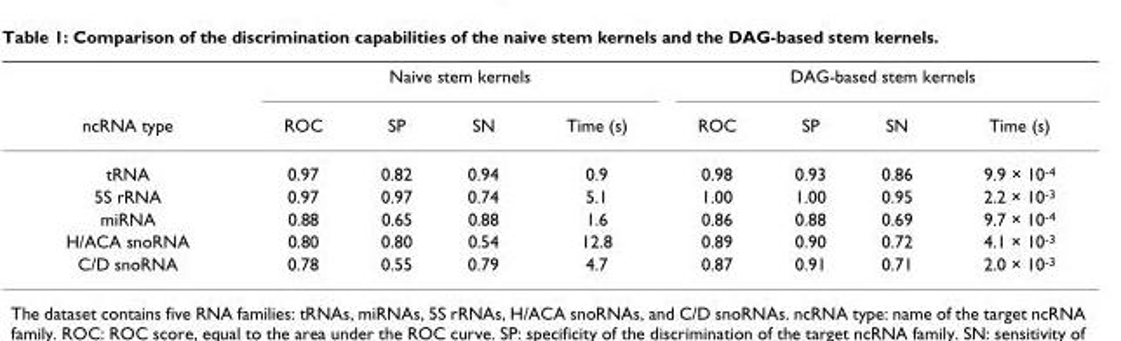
<table><thead><tr><td rowspan="2">ncRNA type</td><td colspan="4">Naive stem kernels</td><td colspan="4">DAG-based stem kernels</td></tr><tr><td>ROC</td><td>SP</td><td>SN</td><td>Time (s)</td><td>ROC</td><td>SP</td><td>SN</td><td>Time (s)</td></tr></thead><tbody><tr><td>tRNA</td><td>0.97</td><td>0.82</td><td>0.94</td><td>0.9</td><td>0.98</td><td>0.93</td><td>0.86</td><td>9.9 × 10<sup>-4</sup></td></tr><tr><td>5S rRNA</td><td>0.97</td><td>0.97</td><td>0.74</td><td>5.1</td><td>1.00</td><td>1.00</td><td>0.95</td><td>2.2 × 10<sup>-3</sup></td></tr><tr><td>miRNA</td><td>0.88</td><td>0.65</td><td>0.88</td><td>1.6</td><td>0.86</td><td>0.88</td><td>0.69</td><td>9.7 × 10<sup>-4</sup></td></tr><tr><td>H/ACA snoRNA</td><td>0.80</td><td>0.80</td><td>0.54</td><td>12.8</td><td>0.89</td><td>0.90</td><td>0.72</td><td>4.1 × 10<sup>-3</sup></td></tr><tr><td>C/D snoRNA</td><td>0.78</td><td>0.55</td><td>0.79</td><td>4.7</td><td>0.87</td><td>0.91</td><td>0.71</td><td>2.0 × 10<sup>-3</sup></td></tr></tbody></table>